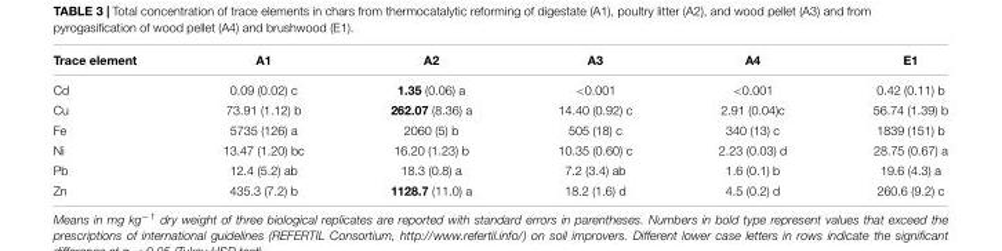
<table><thead><tr><td>Trace element</td><td>A1</td><td>A2</td><td>A3</td><td>A4</td><td>E1</td></tr></thead><tbody><tr><td>Cd</td><td>0.09 (0.02) c</td><td>1.35 (0.06) a</td><td>&lt;0.001</td><td>&lt;0.001</td><td>0.42 (0.11) b</td></tr><tr><td>Cu</td><td>73.91 (1.12) b</td><td>262.07 (8.36) a</td><td>14.40 (0.92) c</td><td>2.91 (0.04)c</td><td>56.74 (1.39) b</td></tr><tr><td>Fe</td><td>5735 (126) a</td><td>2060 (5) b</td><td>505 (18) c</td><td>340 (13) c</td><td>1839 (151) b</td></tr><tr><td>Ni</td><td>13.47 (1.20) bc</td><td>16.20 (1.23) b</td><td>10.35 (0.60) c</td><td>2.23 (0.03) d</td><td>28.75 (0.67) a</td></tr><tr><td>Pb</td><td>12.4 (5.2) ab</td><td>18.3 (0.8) a</td><td>7.2 (3.4) ab</td><td>1.6 (0.1) b</td><td>19.6 (4.3) a</td></tr><tr><td>Zn</td><td>435.3 (7.2) b</td><td>1128.7 (11.0) a</td><td>18.2 (1.6) d</td><td>4.5 (0.2) d</td><td>260.6 (9.2) c</td></tr></tbody></table>